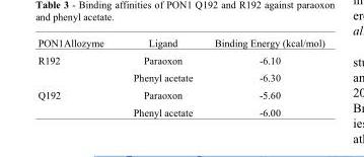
<table><thead><tr><td>PON1Allozyme</td><td>Ligand</td><td>Binding Energy (kcal/mol)</td></tr></thead><tbody><tr><td rowspan="2">R192</td><td>Paraoxon</td><td>-6.10</td></tr><tr><td>Phenyl acetate</td><td>-6.30</td></tr><tr><td rowspan="2">Q192</td><td>Paraoxon</td><td>-5.60</td></tr><tr><td>Phenyl acetate</td><td>-6.00</td></tr></tbody></table>